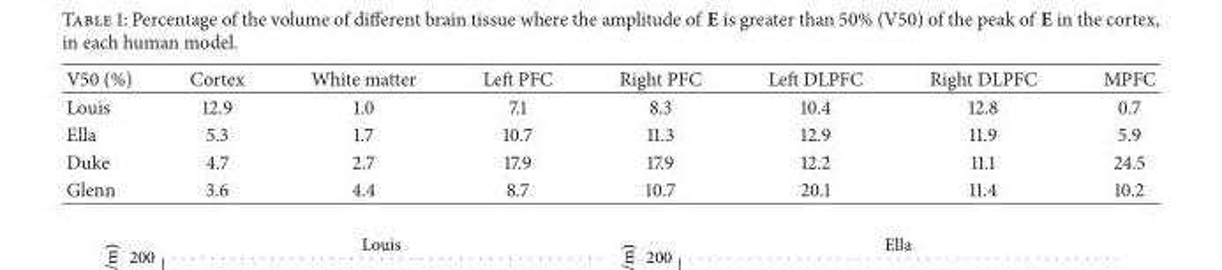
<table><thead><tr><td>V50 (%)</td><td>Cortex</td><td>White matter</td><td>Left PFC</td><td>Right PFC</td><td>Left DLPFC</td><td>Right DLPFC</td><td>MPFC</td></tr></thead><tbody><tr><td>Louis</td><td>12.9</td><td>1.0</td><td>7.1</td><td>8.3</td><td>10.4</td><td>12.8</td><td>0.7</td></tr><tr><td>Ella</td><td>5.3</td><td>1.7</td><td>10.7</td><td>11.3</td><td>12.9</td><td>11.9</td><td>5.9</td></tr><tr><td>Duke</td><td>4.7</td><td>2.7</td><td>17.9</td><td>17.9</td><td>12.2</td><td>11.1</td><td>24.5</td></tr><tr><td>Glenn</td><td>3.6</td><td>4.4</td><td>8.7</td><td>10.7</td><td>20.1</td><td>11.4</td><td>10.2</td></tr></tbody></table>